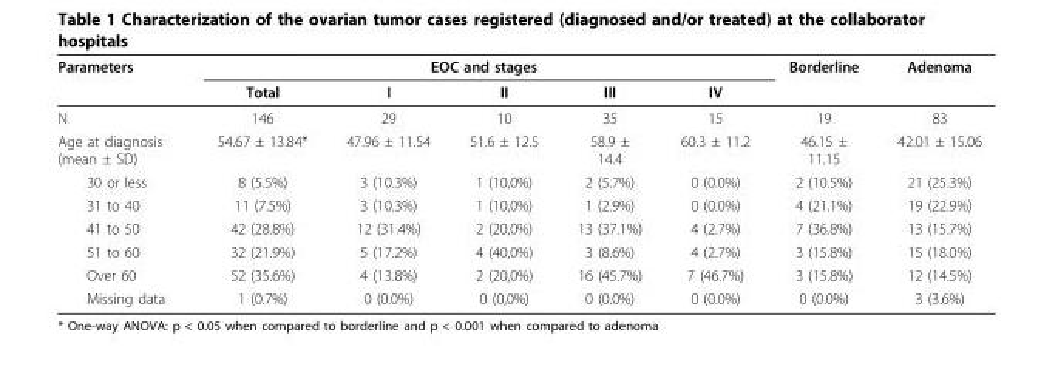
<table><thead><tr><td rowspan="2">Parameters</td><td colspan="5">EOC and stages</td><td rowspan="2">Borderline</td><td rowspan="2">Adenoma</td></tr><tr><td>Total</td><td>I</td><td>II</td><td>III</td><td>IV</td></tr></thead><tbody><tr><td>N</td><td>146</td><td>29</td><td>10</td><td>35</td><td>15</td><td>19</td><td>83</td></tr><tr><td>Age at diagnosis (mean ± SD)</td><td>54.67 ± 13.84*</td><td>47.96 ± 11.54</td><td>51.6 ± 12.5</td><td>58.9 ± 14.4</td><td>60.3 ± 11.2</td><td>46.15 ± 11.15</td><td>42.01 ± 15.06</td></tr><tr><td>30 or less</td><td>8 (5.5%)</td><td>3 (10.3%)</td><td>1 (10,0%)</td><td>2 (5.7%)</td><td>0 (0.0%)</td><td>2 (10.5%)</td><td>21 (25.3%)</td></tr><tr><td>31 to 40</td><td>11 (7.5%)</td><td>3 (10.3%)</td><td>1 (10,0%)</td><td>1 (2.9%)</td><td>0 (0.0%)</td><td>4 (21.1%)</td><td>19 (22.9%)</td></tr><tr><td>41 to 50</td><td>42 (28.8%)</td><td>12 (31.4%)</td><td>2 (20,0%)</td><td>13 (37.1%)</td><td>4 (2.7%)</td><td>7 (36.8%)</td><td>13 (15.7%)</td></tr><tr><td>51 to 60</td><td>32 (21.9%)</td><td>5 (17.2%)</td><td>4 (40,0%)</td><td>3 (8.6%)</td><td>4 (2.7%)</td><td>3 (15.8%)</td><td>15 (18.0%)</td></tr><tr><td>Over 60</td><td>52 (35.6%)</td><td>4 (13.8%)</td><td>2 (20,0%)</td><td>16 (45.7%)</td><td>7 (46.7%)</td><td>3 (15.8%)</td><td>12 (14.5%)</td></tr><tr><td>Missing data</td><td>1 (0.7%)</td><td>0 (0.0%)</td><td>0 (0,0%)</td><td>0 (0.0%)</td><td>0 (0.0%)</td><td>0 (0.0%)</td><td>3 (3.6%)</td></tr></tbody></table>